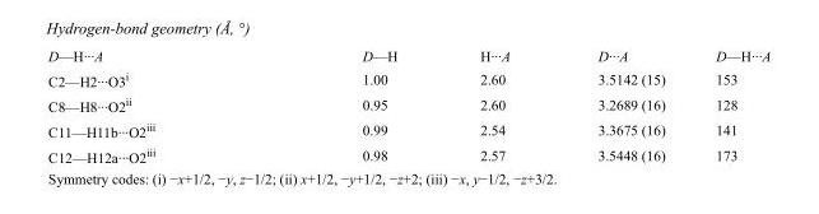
<table><tbody><tr><td>D—H···A</td><td>D—H</td><td>H···A</td><td>D···A</td><td>D—H···A</td></tr><tr><td>C2—H2···O3<sup>i</sup></td><td>1.00</td><td>2.60</td><td>3.5142 (15)</td><td>153</td></tr><tr><td>C8—H8···O2<sup>ii</sup></td><td>0.95</td><td>2.60</td><td>3.2689 (16)</td><td>128</td></tr><tr><td>C11—H11b···O2<sup>iii</sup></td><td>0.99</td><td>2.54</td><td>3.3675 (16)</td><td>141</td></tr><tr><td>C12—H12a···O2<sup>iii</sup></td><td>0.98</td><td>2.57</td><td>3.5448 (16)</td><td>173</td></tr></tbody></table>